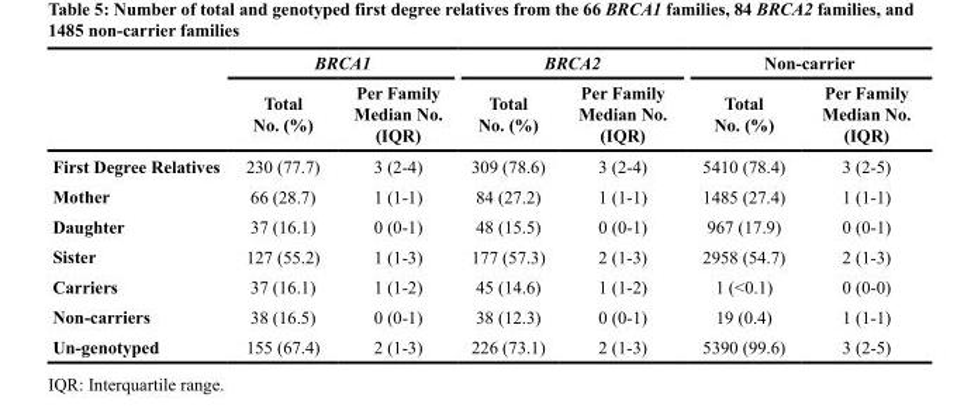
<table><thead><tr><td rowspan="2"></td><td colspan="2">BRCA1</td><td colspan="2">BRCA2</td><td colspan="2">Non-carrier</td></tr><tr><td>Total No. (%)</td><td>Per Family Median No. (IQR)</td><td>Total No. (%)</td><td>Per Family Median No. (IQR)</td><td>Total No. (%)</td><td>Per Family Median No. (IQR)</td></tr></thead><tbody><tr><td>First Degree Relatives</td><td>230 (77.7)</td><td>3 (2-4)</td><td>309 (78.6)</td><td>3 (2-4)</td><td>5410 (78.4)</td><td>3 (2-5)</td></tr><tr><td>Mother</td><td>66 (28.7)</td><td>1 (1-1)</td><td>84 (27.2)</td><td>1 (1-1)</td><td>1485 (27.4)</td><td>1 (1-1)</td></tr><tr><td>Daughter</td><td>37 (16.1)</td><td>0 (0-1)</td><td>48 (15.5)</td><td>0 (0-1)</td><td>967 (17.9)</td><td>0 (0-1)</td></tr><tr><td>Sister</td><td>127 (55.2)</td><td>1 (1-3)</td><td>177 (57.3)</td><td>2 (1-3)</td><td>2958 (54.7)</td><td>2 (1-3)</td></tr><tr><td>Carriers</td><td>37 (16.1)</td><td>1 (1-2)</td><td>45 (14.6)</td><td>1 (1-2)</td><td>1 (&lt;0.1)</td><td>0 (0-0)</td></tr><tr><td>Non-carriers</td><td>38 (16.5)</td><td>0 (0-1)</td><td>38 (12.3)</td><td>0 (0-1)</td><td>19 (0.4)</td><td>1 (1-1)</td></tr><tr><td>Un-genotyped</td><td>155 (67.4)</td><td>2 (1-3)</td><td>226 (73.1)</td><td>2 (1-3)</td><td>5390 (99.6)</td><td>3 (2-5)</td></tr></tbody></table>